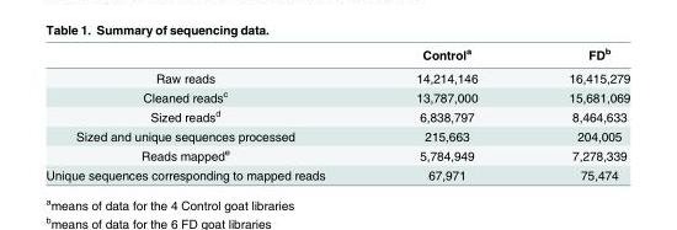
<table><thead><tr><td></td><td>Control<sup>a</sup></td><td>FD<sup>b</sup></td></tr></thead><tbody><tr><td>Raw reads</td><td>14,214,146</td><td>16,415,279</td></tr><tr><td>Cleaned reads<sup>c</sup></td><td>13,787,000</td><td>15,681,069</td></tr><tr><td>Sized reads<sup>d</sup></td><td>6,838,797</td><td>8,464,633</td></tr><tr><td>Sized and unique sequences processed</td><td>215,663</td><td>204,005</td></tr><tr><td>Reads mapped<sup>e</sup></td><td>5,784,949</td><td>7,278,339</td></tr><tr><td>Unique sequences corresponding to mapped reads</td><td>67,971</td><td>75,474</td></tr></tbody></table>